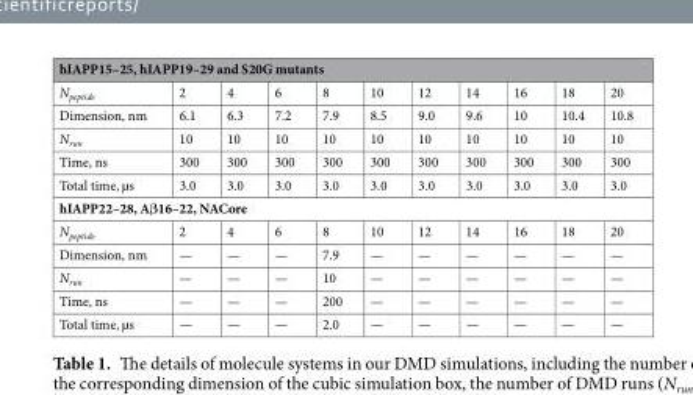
<table><thead><tr><td colspan="11">hIAPP15–25, hIAPP19–29 and S20G mutants</td></tr><tr><td>N<sub>peptide</sub></td><td>2</td><td>4</td><td>6</td><td>8</td><td>10</td><td>12</td><td>14</td><td>16</td><td>18</td><td>20</td></tr></thead><tbody><tr><td>Dimension, nm</td><td>6.1</td><td>6.3</td><td>7.2</td><td>7.9</td><td>8.5</td><td>9.0</td><td>9.6</td><td>10</td><td>10.4</td><td>10.8</td></tr><tr><td>N<sub>run</sub></td><td>10</td><td>10</td><td>10</td><td>10</td><td>10</td><td>10</td><td>10</td><td>10</td><td>10</td><td>10</td></tr><tr><td>Time, ns</td><td>300</td><td>300</td><td>300</td><td>300</td><td>300</td><td>300</td><td>300</td><td>300</td><td>300</td><td>300</td></tr><tr><td>Total time, µs</td><td>3.0</td><td>3.0</td><td>3.0</td><td>3.0</td><td>3.0</td><td>3.0</td><td>3.0</td><td>3.0</td><td>3.0</td><td>3.0</td></tr><tr><td colspan="11">hIAPP22–28, Aβ16–22, NACore</td></tr><tr><td>N<sub>peptide</sub></td><td>2</td><td>4</td><td>6</td><td>8</td><td>10</td><td>12</td><td>14</td><td>16</td><td>18</td><td>20</td></tr><tr><td>Dimension, nm</td><td>—</td><td>—</td><td>—</td><td>7.9</td><td>—</td><td>—</td><td>—</td><td>—</td><td>—</td><td>—</td></tr><tr><td>N<sub>run</sub></td><td>—</td><td>—</td><td>—</td><td>10</td><td>—</td><td>—</td><td>—</td><td>—</td><td>—</td><td>—</td></tr><tr><td>Time, ns</td><td>—</td><td>—</td><td>—</td><td>200</td><td>—</td><td>—</td><td>—</td><td>—</td><td>—</td><td>—</td></tr><tr><td>Total time, µs</td><td>—</td><td>—</td><td>—</td><td>2.0</td><td>—</td><td>—</td><td>—</td><td>—</td><td>—</td><td>—</td></tr></tbody></table>